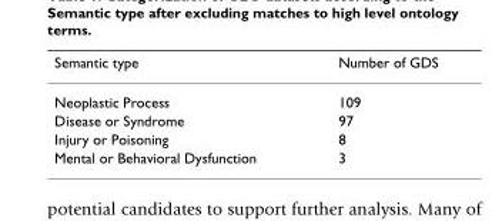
<table><thead><tr><td>Semantic type</td><td>Number of GDS</td></tr></thead><tbody><tr><td>Neoplastic Process</td><td>109</td></tr><tr><td>Disease or Syndrome</td><td>97</td></tr><tr><td>Injury or Poisoning</td><td>8</td></tr><tr><td>Mental or Behavioral Dysfunction</td><td>3</td></tr></tbody></table>